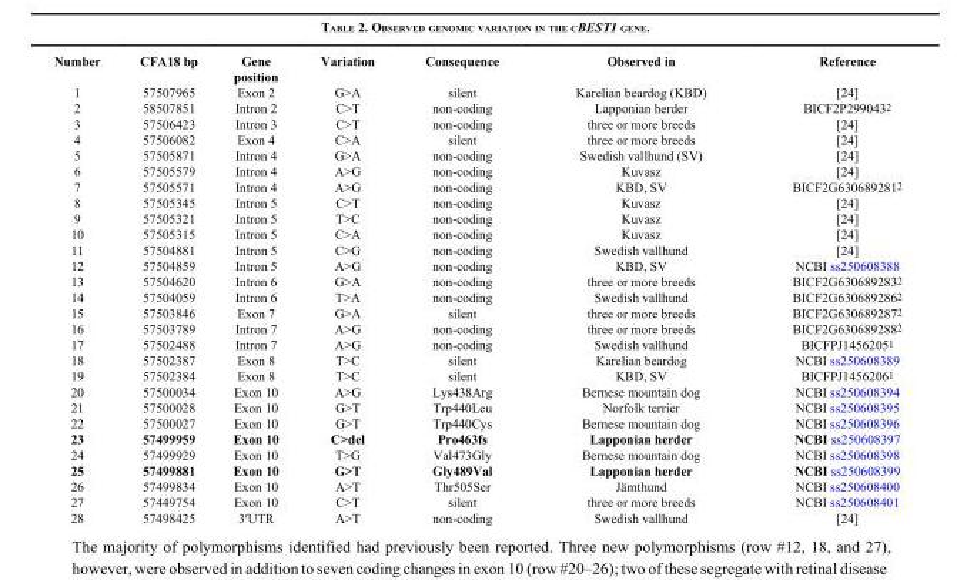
<table><thead><tr><td>Number</td><td>CFA18 bp</td><td>Gene position</td><td>Variation</td><td>Consequence</td><td>Observed in</td><td>Reference</td></tr></thead><tbody><tr><td>1</td><td>57507965</td><td>Exon 2</td><td>G&gt;A</td><td>silent</td><td>Karelian beardog (KBD)</td><td>[24]</td></tr><tr><td>2</td><td>58507851</td><td>Intron 2</td><td>C&gt;T</td><td>non-coding</td><td>Lapponian herder</td><td>BICF2P299043<sup>2</sup></td></tr><tr><td>3</td><td>57506423</td><td>Intron 3</td><td>C&gt;T</td><td>non-coding</td><td>three or more breeds</td><td>[24]</td></tr><tr><td>4</td><td>57506082</td><td>Exon 4</td><td>C&gt;A</td><td>silent</td><td>three or more breeds</td><td>[24]</td></tr><tr><td>5</td><td>57505871</td><td>Intron 4</td><td>G&gt;A</td><td>non-coding</td><td>Swedish vallhund (SV)</td><td>[24]</td></tr><tr><td>6</td><td>57505579</td><td>Intron 4</td><td>A&gt;G</td><td>non-coding</td><td>Kuvasz</td><td>[24]</td></tr><tr><td>7</td><td>57505571</td><td>Intron 4</td><td>A&gt;G</td><td>non-coding</td><td>KBD, SV</td><td>BICF2G630689281<sup>2</sup></td></tr><tr><td>8</td><td>57505345</td><td>Intron 5</td><td>C&gt;T</td><td>non-coding</td><td>Kuvasz</td><td>[24]</td></tr><tr><td>9</td><td>57505321</td><td>Intron 5</td><td>T&gt;C</td><td>non-coding</td><td>Kuvasz</td><td>[24]</td></tr><tr><td>10</td><td>57505315</td><td>Intron 5</td><td>C&gt;A</td><td>non-coding</td><td>Kuvasz</td><td>[24]</td></tr><tr><td>11</td><td>57504881</td><td>Intron 5</td><td>C&gt;G</td><td>non-coding</td><td>Swedish vallhund</td><td>[24]</td></tr><tr><td>12</td><td>57504859</td><td>Intron 5</td><td>A&gt;G</td><td>non-coding</td><td>KBD, SV</td><td>NCBI ss250608388</td></tr><tr><td>13</td><td>57504620</td><td>Intron 6</td><td>G&gt;A</td><td>non-coding</td><td>three or more breeds</td><td>BICF2G630689283<sup>2</sup></td></tr><tr><td>14</td><td>57504059</td><td>Intron 6</td><td>T&gt;A</td><td>non-coding</td><td>Swedish vallhund</td><td>BICF2G630689286<sup>2</sup></td></tr><tr><td>15</td><td>57503846</td><td>Exon 7</td><td>G&gt;A</td><td>silent</td><td>three or more breeds</td><td>BICF2G630689287<sup>2</sup></td></tr><tr><td>16</td><td>57503789</td><td>Intron 7</td><td>A&gt;G</td><td>non-coding</td><td>three or more breeds</td><td>BICF2G630689288<sup>2</sup></td></tr><tr><td>17</td><td>57502488</td><td>Intron 7</td><td>A&gt;G</td><td>non-coding</td><td>Swedish vallhund</td><td>BICFPJ1456205<sup>1</sup></td></tr><tr><td>18</td><td>57502387</td><td>Exon 8</td><td>T&gt;C</td><td>silent</td><td>Karelian beardog</td><td>NCBI ss250608389</td></tr><tr><td>19</td><td>57502384</td><td>Exon 8</td><td>T&gt;C</td><td>silent</td><td>KBD, SV</td><td>BICFPJ1456206<sup>1</sup></td></tr><tr><td>20</td><td>57500034</td><td>Exon 10</td><td>A&gt;G</td><td>Lys438Arg</td><td>Bernese mountain dog</td><td>NCBI ss250608394</td></tr><tr><td>21</td><td>57500028</td><td>Exon 10</td><td>G&gt;T</td><td>Trp440Leu</td><td>Norfolk terrier</td><td>NCBI ss250608395</td></tr><tr><td>22</td><td>57500027</td><td>Exon 10</td><td>G&gt;T</td><td>Trp440Cys</td><td>Bernese mountain dog</td><td>NCBI ss250608396</td></tr><tr><td>23</td><td>57499959</td><td>Exon 10</td><td>C&gt;del</td><td>Pro463fs</td><td>Lapponian herder</td><td>NCBI ss250608397</td></tr><tr><td>24</td><td>57499929</td><td>Exon 10</td><td>T&gt;G</td><td>Val473Gly</td><td>Bernese mountain dog</td><td>NCBI ss250608398</td></tr><tr><td>25</td><td>57499881</td><td>Exon 10</td><td>G&gt;T</td><td>Gly489Val</td><td>Lapponian herder</td><td>NCBI ss250608399</td></tr><tr><td>26</td><td>57499834</td><td>Exon 10</td><td>A&gt;T</td><td>Thr505Ser</td><td>Jämthund</td><td>NCBI ss250608400</td></tr><tr><td>27</td><td>57449754</td><td>Exon 10</td><td>C&gt;T</td><td>silent</td><td>three or more breeds</td><td>NCBI ss250608401</td></tr><tr><td>28</td><td>57498425</td><td>3′UTR</td><td>A&gt;T</td><td>non-coding</td><td>Swedish vallhund</td><td>[24]</td></tr></tbody></table>